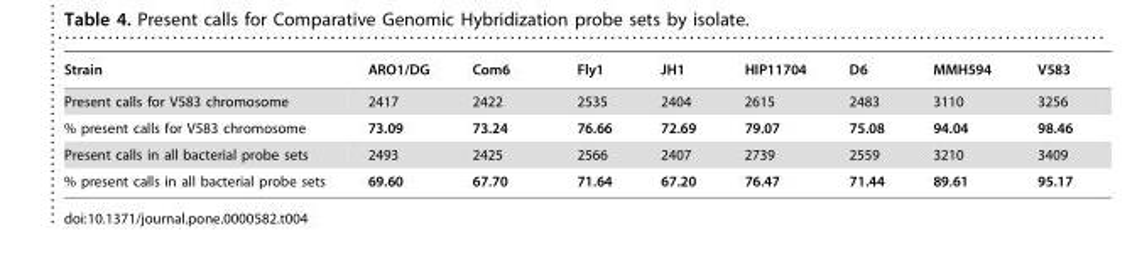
<table><thead><tr><td>Strain</td><td>ARO1/DG</td><td>Com6</td><td>Fly1</td><td>JH1</td><td>HIP11704</td><td>D6</td><td>MMH594</td><td>V583</td></tr></thead><tbody><tr><td>Present calls for V583 chromosome</td><td>2417</td><td>2422</td><td>2535</td><td>2404</td><td>2615</td><td>2483</td><td>3110</td><td>3256</td></tr><tr><td>% present calls for V583 chromosome</td><td>73.09</td><td>73.24</td><td>76.66</td><td>72.69</td><td>79.07</td><td>75.08</td><td>94.04</td><td>98.46</td></tr><tr><td>Present calls in all bacterial probe sets</td><td>2493</td><td>2425</td><td>2566</td><td>2407</td><td>2739</td><td>2559</td><td>3210</td><td>3409</td></tr><tr><td>% present calls in all bacterial probe sets</td><td>69.60</td><td>67.70</td><td>71.64</td><td>67.20</td><td>76.47</td><td>71.44</td><td>89.61</td><td>95.17</td></tr></tbody></table>